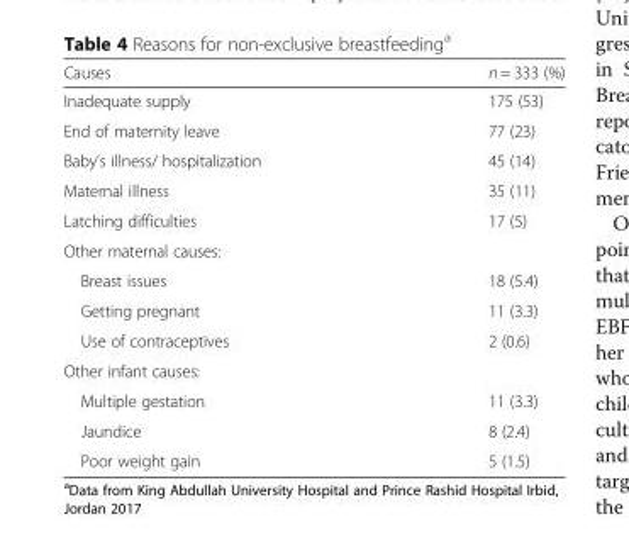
<table><thead><tr><td>Causes</td><td>n = 333 (%)</td></tr></thead><tbody><tr><td>Inadequate supply</td><td>175 (53)</td></tr><tr><td>End of maternity leave</td><td>77 (23)</td></tr><tr><td>Baby’s illness/ hospitalization</td><td>45 (14)</td></tr><tr><td>Maternal illness</td><td>35 (11)</td></tr><tr><td>Latching difficulties</td><td>17 (5)</td></tr><tr><td colspan="2">Other maternal causes:</td></tr><tr><td>Breast issues</td><td>18 (5.4)</td></tr><tr><td>Getting pregnant</td><td>11 (3.3)</td></tr><tr><td>Use of contraceptives</td><td>2 (0.6)</td></tr><tr><td colspan="2">Other infant causes:</td></tr><tr><td>Multiple gestation</td><td>11 (3.3)</td></tr><tr><td>Jaundice</td><td>8 (2.4)</td></tr><tr><td>Poor weight gain</td><td>5 (1.5)</td></tr></tbody></table>